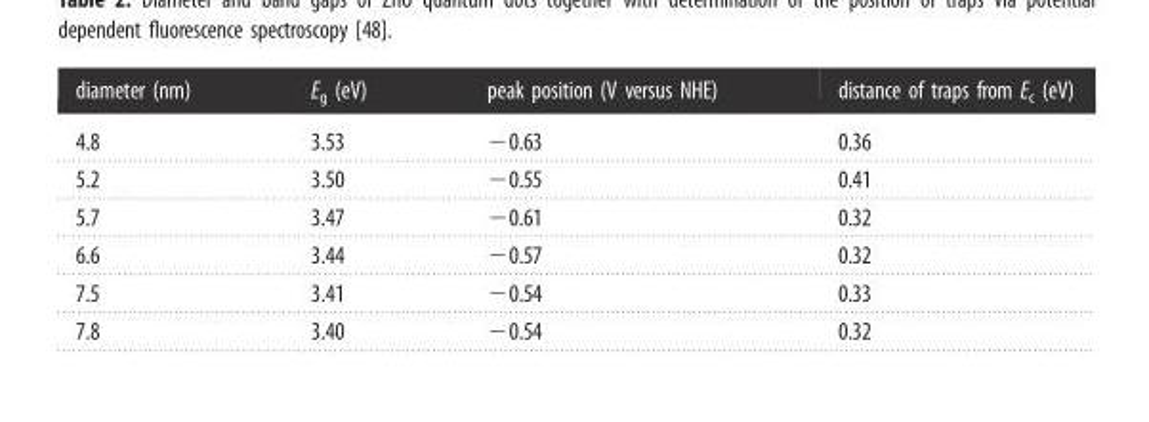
<table><thead><tr><td>diameter (nm)</td><td>E<sub>g</sub> (eV)</td><td>peak position (V versus NHE)</td><td>distance of traps from E<sub>c</sub> (eV)</td></tr></thead><tbody><tr><td>4.8</td><td>3.53</td><td>−0.63</td><td>0.36</td></tr><tr><td>5.2</td><td>3.50</td><td>−0.55</td><td>0.41</td></tr><tr><td>5.7</td><td>3.47</td><td>−0.61</td><td>0.32</td></tr><tr><td>6.6</td><td>3.44</td><td>−0.57</td><td>0.32</td></tr><tr><td>7.5</td><td>3.41</td><td>−0.54</td><td>0.33</td></tr><tr><td>7.8</td><td>3.40</td><td>−0.54</td><td>0.32</td></tr></tbody></table>